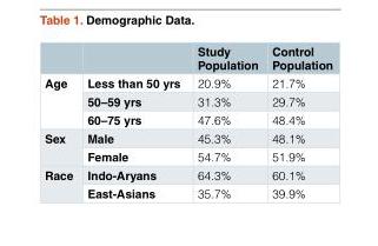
<table><thead><tr><td></td><td></td><td>Study Population</td><td>Control Population</td></tr></thead><tbody><tr><td rowspan="3">Age</td><td>Less than 50 yrs</td><td>20.9%</td><td>21.7%</td></tr><tr><td>50–59 yrs</td><td>31.3%</td><td>29.7%</td></tr><tr><td>60–75 yrs</td><td>47.6%</td><td>48.4%</td></tr><tr><td rowspan="2">Sex</td><td>Male</td><td>45.3%</td><td>48.1%</td></tr><tr><td>Female</td><td>54.7%</td><td>51.9%</td></tr><tr><td rowspan="2">Race</td><td>Indo-Aryans</td><td>64.3%</td><td>60.1%</td></tr><tr><td>East-Asians</td><td>35.7%</td><td>39.9%</td></tr></tbody></table>